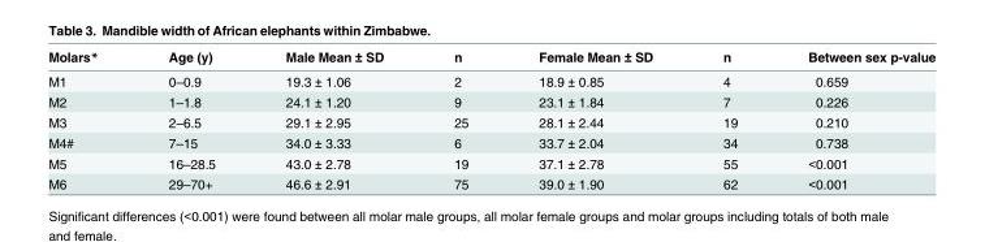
<table><thead><tr><td>Molars*</td><td>Age (y)</td><td>Male Mean ± SD</td><td>n</td><td>Female Mean ± SD</td><td>n</td><td>Between sex p-value</td></tr></thead><tbody><tr><td>M1</td><td>0–0.9</td><td>19.3 ± 1.06</td><td>2</td><td>18.9 ± 0.85</td><td>4</td><td>0.659</td></tr><tr><td>M2</td><td>1–1.8</td><td>24.1 ± 1.20</td><td>9</td><td>23.1 ± 1.84</td><td>7</td><td>0.226</td></tr><tr><td>M3</td><td>2–6.5</td><td>29.1 ± 2.95</td><td>25</td><td>28.1 ± 2.44</td><td>19</td><td>0.210</td></tr><tr><td>M4#</td><td>7–15</td><td>34.0 ± 3.33</td><td>6</td><td>33.7 ± 2.04</td><td>34</td><td>0.738</td></tr><tr><td>M5</td><td>16–28.5</td><td>43.0 ± 2.78</td><td>19</td><td>37.1 ± 2.78</td><td>55</td><td>&lt;0.001</td></tr><tr><td>M6</td><td>29–70+</td><td>46.6 ± 2.91</td><td>75</td><td>39.0 ± 1.90</td><td>62</td><td>&lt;0.001</td></tr></tbody></table>